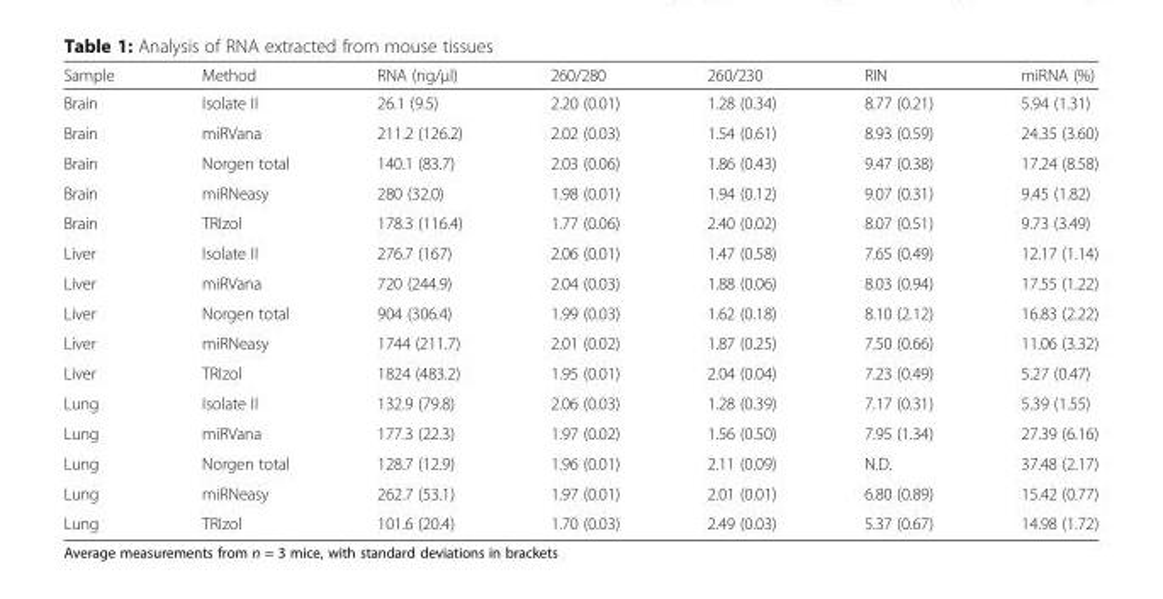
<table><thead><tr><td>Sample</td><td>Method</td><td>RNA (ng/μl)</td><td>260/280</td><td>260/230</td><td>RIN</td><td>miRNA (%)</td></tr></thead><tbody><tr><td>Brain</td><td>Isolate II</td><td>26.1 (9.5)</td><td>2.20 (0.01)</td><td>1.28 (0.34)</td><td>8.77 (0.21)</td><td>5.94 (1.31)</td></tr><tr><td>Brain</td><td>miRVana</td><td>211.2 (126.2)</td><td>2.02 (0.03)</td><td>1.54 (0.61)</td><td>8.93 (0.59)</td><td>24.35 (3.60)</td></tr><tr><td>Brain</td><td>Norgen total</td><td>140.1 (83.7)</td><td>2.03 (0.06)</td><td>1.86 (0.43)</td><td>9.47 (0.38)</td><td>17.24 (8.58)</td></tr><tr><td>Brain</td><td>miRNeasy</td><td>280 (32.0)</td><td>1.98 (0.01)</td><td>1.94 (0.12)</td><td>9.07 (0.31)</td><td>9.45 (1.82)</td></tr><tr><td>Brain</td><td>TRIzol</td><td>178.3 (116.4)</td><td>1.77 (0.06)</td><td>2.40 (0.02)</td><td>8.07 (0.51)</td><td>9.73 (3.49)</td></tr><tr><td>Liver</td><td>Isolate II</td><td>276.7 (167)</td><td>2.06 (0.01)</td><td>1.47 (0.58)</td><td>7.65 (0.49)</td><td>12.17 (1.14)</td></tr><tr><td>Liver</td><td>miRVana</td><td>720 (244.9)</td><td>2.04 (0.03)</td><td>1.88 (0.06)</td><td>8.03 (0.94)</td><td>17.55 (1.22)</td></tr><tr><td>Liver</td><td>Norgen total</td><td>904 (306.4)</td><td>1.99 (0.03)</td><td>1.62 (0.18)</td><td>8.10 (2.12)</td><td>16.83 (2.22)</td></tr><tr><td>Liver</td><td>miRNeasy</td><td>1744 (211.7)</td><td>2.01 (0.02)</td><td>1.87 (0.25)</td><td>7.50 (0.66)</td><td>11.06 (3.32)</td></tr><tr><td>Liver</td><td>TRIzol</td><td>1824 (483.2)</td><td>1.95 (0.01)</td><td>2.04 (0.04)</td><td>7.23 (0.49)</td><td>5.27 (0.47)</td></tr><tr><td>Lung</td><td>Isolate II</td><td>132.9 (79.8)</td><td>2.06 (0.03)</td><td>1.28 (0.39)</td><td>7.17 (0.31)</td><td>5.39 (1.55)</td></tr><tr><td>Lung</td><td>miRVana</td><td>177.3 (22.3)</td><td>1.97 (0.02)</td><td>1.56 (0.50)</td><td>7.95 (1.34)</td><td>27.39 (6.16)</td></tr><tr><td>Lung</td><td>Norgen total</td><td>128.7 (12.9)</td><td>1.96 (0.01)</td><td>2.11 (0.09)</td><td>N.D.</td><td>37.48 (2.17)</td></tr><tr><td>Lung</td><td>miRNeasy</td><td>262.7 (53.1)</td><td>1.97 (0.01)</td><td>2.01 (0.01)</td><td>6.80 (0.89)</td><td>15.42 (0.77)</td></tr><tr><td>Lung</td><td>TRIzol</td><td>101.6 (20.4)</td><td>1.70 (0.03)</td><td>2.49 (0.03)</td><td>5.37 (0.67)</td><td>14.98 (1.72)</td></tr></tbody></table>